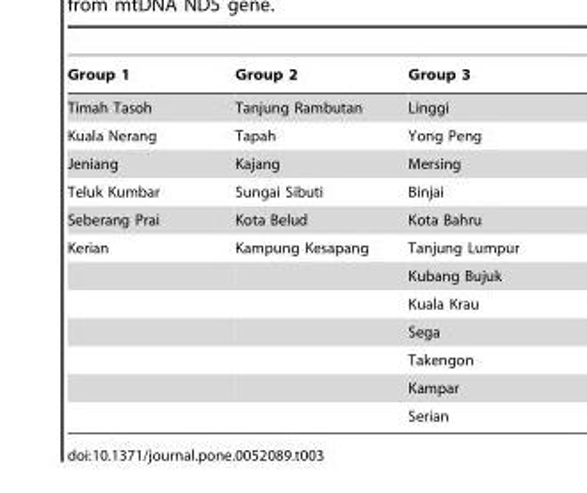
<table><thead><tr><td>Group 1</td><td>Group 2</td><td>Group 3</td></tr></thead><tbody><tr><td>Timah Tasoh</td><td>Tanjung Rambutan</td><td>Linggi</td></tr><tr><td>Kuala Nerang</td><td>Tapah</td><td>Yong Peng</td></tr><tr><td>Jeniang</td><td>Kajang</td><td>Mersing</td></tr><tr><td>Teluk Kumbar</td><td>Sungai Sibuti</td><td>Binjai</td></tr><tr><td>Seberang Prai</td><td>Kota Belud</td><td>Kota Bahru</td></tr><tr><td rowspan="7">Kerian</td><td>Kampung Kesapang</td><td>Tanjung Lumpur</td></tr><tr><td></td><td>Kubang Bujuk</td></tr><tr><td></td><td>Kuala Krau</td></tr><tr><td></td><td>Sega</td></tr><tr><td></td><td>Takengon</td></tr><tr><td></td><td>Kampar</td></tr><tr><td></td><td>Serian</td></tr></tbody></table>